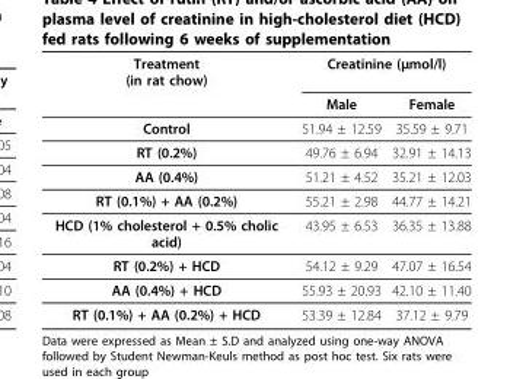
<table><thead><tr><td rowspan="2">Treatment (in rat chow)</td><td colspan="2">Creatinine (μmol/l)</td></tr><tr><td>Male</td><td>Female</td></tr></thead><tbody><tr><td>Control</td><td>51.94 ± 12.59</td><td>35.59 ± 9.71</td></tr><tr><td>RT (0.2%)</td><td>49.76 ± 6.94</td><td>32.91 ± 14.13</td></tr><tr><td>AA (0.4%)</td><td>51.21 ± 4.52</td><td>35.21 ± 12.03</td></tr><tr><td>RT (0.1%) + AA (0.2%)</td><td>55.21 ± 2.98</td><td>44.77 ± 14.21</td></tr><tr><td>HCD (1% cholesterol + 0.5% cholic acid)</td><td>43.95 ± 6.53</td><td>36.35 ± 13.88</td></tr><tr><td>RT (0.2%) + HCD</td><td>54.12 ± 9.29</td><td>47.07 ± 16.54</td></tr><tr><td>AA (0.4%) + HCD</td><td>55.93 ± 20.93</td><td>42.10 ± 11.40</td></tr><tr><td>RT (0.1%) + AA (0.2%) + HCD</td><td>53.39 ± 12.84</td><td>37.12 ± 9.79</td></tr></tbody></table>